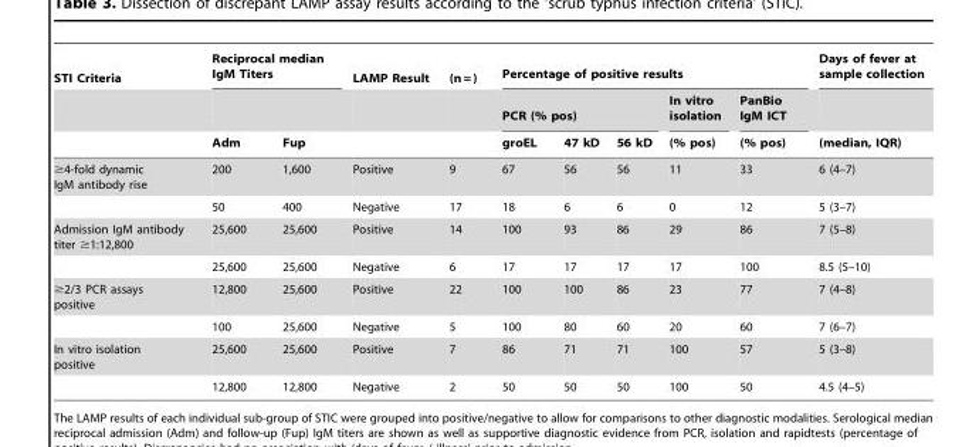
<table><thead><tr><td rowspan="3">STI Criteria</td><td colspan="2">Reciprocal median IgM Titers</td><td rowspan="3">LAMP Result</td><td rowspan="3">(n = )</td><td colspan="5">Percentage of positive results</td><td rowspan="3">Days of fever at sample collection (median, IQR)</td></tr><tr><td rowspan="2">Adm</td><td rowspan="2">Fup</td><td colspan="3">PCR (% pos)</td><td rowspan="2">In vitro isolation (% pos)</td><td rowspan="2">PanBio IgM ICT (% pos)</td></tr><tr><td>groEL</td><td>47 kD</td><td>56 kD</td></tr></thead><tbody><tr><td rowspan="2">≥4-fold dynamic IgM antibody rise</td><td>200</td><td>1,600</td><td>Positive</td><td>9</td><td>67</td><td>56</td><td>56</td><td>11</td><td>33</td><td>6 (4–7)</td></tr><tr><td>50</td><td>400</td><td>Negative</td><td>17</td><td>18</td><td>6</td><td>6</td><td>0</td><td>12</td><td>5 (3–7)</td></tr><tr><td rowspan="2">Admission IgM antibody titer ≥1:12,800</td><td>25,600</td><td>25,600</td><td>Positive</td><td>14</td><td>100</td><td>93</td><td>86</td><td>29</td><td>86</td><td>7 (5–8)</td></tr><tr><td>25,600</td><td>25,600</td><td>Negative</td><td>6</td><td>17</td><td>17</td><td>17</td><td>17</td><td>100</td><td>8.5 (5–10)</td></tr><tr><td rowspan="2">≥2/3 PCR assays positive</td><td>12,800</td><td>25,600</td><td>Positive</td><td>22</td><td>100</td><td>100</td><td>86</td><td>23</td><td>77</td><td>7 (4–8)</td></tr><tr><td>100</td><td>25,600</td><td>Negative</td><td>5</td><td>100</td><td>80</td><td>60</td><td>20</td><td>60</td><td>7 (6–7)</td></tr><tr><td rowspan="2">In vitro isolation positive</td><td>25,600</td><td>25,600</td><td>Positive</td><td>7</td><td>86</td><td>71</td><td>71</td><td>100</td><td>57</td><td>5 (3–8)</td></tr><tr><td>12,800</td><td>12,800</td><td>Negative</td><td>2</td><td>50</td><td>50</td><td>50</td><td>100</td><td>50</td><td>4.5 (4–5)</td></tr></tbody></table>